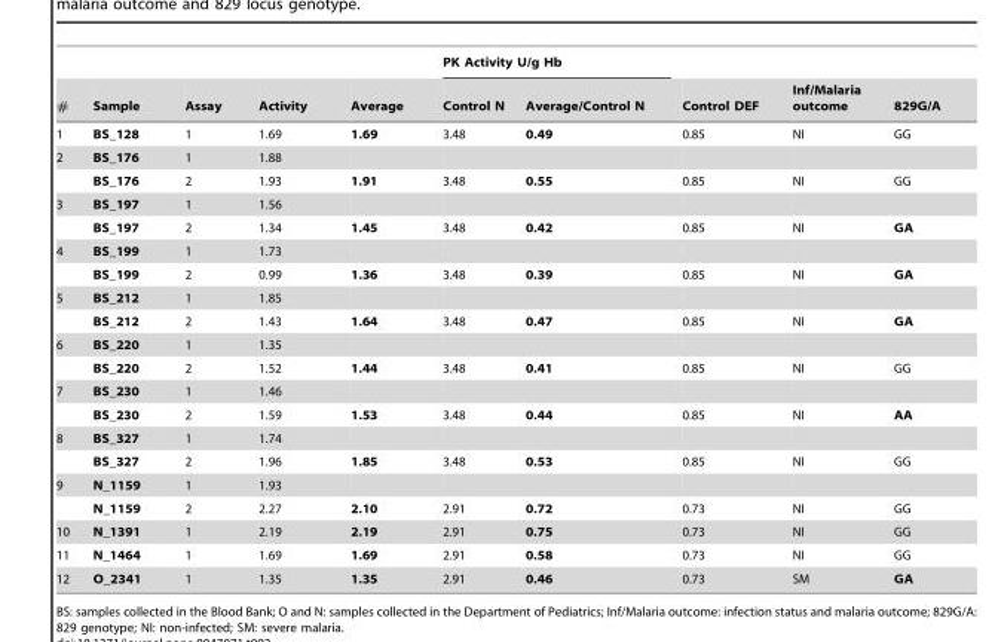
<table><thead><tr><td rowspan="2">#</td><td rowspan="2">Sample</td><td rowspan="2">Assay</td><td rowspan="2">Activity</td><td rowspan="2">Average</td><td colspan="2">PK Activity U/g Hb</td><td rowspan="2">Control DEF</td><td rowspan="2">Inf/Malaria outcome</td><td rowspan="2">829G/A</td></tr><tr><td>Control N</td><td>Average/Control N</td></tr></thead><tbody><tr><td>1</td><td>BS_128</td><td>1</td><td>1.69</td><td>1.69</td><td>3.48</td><td>0.49</td><td>0.85</td><td>NI</td><td>GG</td></tr><tr><td rowspan="2">2</td><td>BS_176</td><td>1</td><td>1.88</td><td></td><td></td><td></td><td></td><td></td><td></td></tr><tr><td>BS_176</td><td>2</td><td>1.93</td><td>1.91</td><td>3.48</td><td>0.55</td><td>0.85</td><td>NI</td><td>GG</td></tr><tr><td rowspan="2">3</td><td>BS_197</td><td>1</td><td>1.56</td><td></td><td></td><td></td><td></td><td></td><td></td></tr><tr><td>BS_197</td><td>2</td><td>1.34</td><td>1.45</td><td>3.48</td><td>0.42</td><td>0.85</td><td>NI</td><td>GA</td></tr><tr><td rowspan="2">4</td><td>BS_199</td><td>1</td><td>1.73</td><td></td><td></td><td></td><td></td><td></td><td></td></tr><tr><td>BS_199</td><td>2</td><td>0.99</td><td>1.36</td><td>3.48</td><td>0.39</td><td>0.85</td><td>NI</td><td>GA</td></tr><tr><td rowspan="2">5</td><td>BS_212</td><td>1</td><td>1.85</td><td></td><td></td><td></td><td></td><td></td><td></td></tr><tr><td>BS_212</td><td>2</td><td>1.43</td><td>1.64</td><td>3.48</td><td>0.47</td><td>0.85</td><td>NI</td><td>GA</td></tr><tr><td rowspan="2">6</td><td>BS_220</td><td>1</td><td>1.35</td><td></td><td></td><td></td><td></td><td></td><td></td></tr><tr><td>BS_220</td><td>2</td><td>1.52</td><td>1.44</td><td>3.48</td><td>0.41</td><td>0.85</td><td>NI</td><td>GG</td></tr><tr><td rowspan="2">7</td><td>BS_230</td><td>1</td><td>1.46</td><td></td><td></td><td></td><td></td><td></td><td></td></tr><tr><td>BS_230</td><td>2</td><td>1.59</td><td>1.53</td><td>3.48</td><td>0.44</td><td>0.85</td><td>NI</td><td>AA</td></tr><tr><td rowspan="2">8</td><td>BS_327</td><td>1</td><td>1.74</td><td></td><td></td><td></td><td></td><td></td><td></td></tr><tr><td>BS_327</td><td>2</td><td>1.96</td><td>1.85</td><td>3.48</td><td>0.53</td><td>0.85</td><td>NI</td><td>GG</td></tr><tr><td rowspan="2">9</td><td>N_1159</td><td>1</td><td>1.93</td><td></td><td></td><td></td><td></td><td></td><td></td></tr><tr><td>N_1159</td><td>2</td><td>2.27</td><td>2.10</td><td>2.91</td><td>0.72</td><td>0.73</td><td>NI</td><td>GG</td></tr><tr><td>10</td><td>N_1391</td><td>1</td><td>2.19</td><td>2.19</td><td>2.91</td><td>0.75</td><td>0.73</td><td>NI</td><td>GG</td></tr><tr><td>11</td><td>N_1464</td><td>1</td><td>1.69</td><td>1.69</td><td>2.91</td><td>0.58</td><td>0.73</td><td>NI</td><td>GG</td></tr><tr><td>12</td><td>O_2341</td><td>1</td><td>1.35</td><td>1.35</td><td>2.91</td><td>0.46</td><td>0.73</td><td>SM</td><td>GA</td></tr></tbody></table>